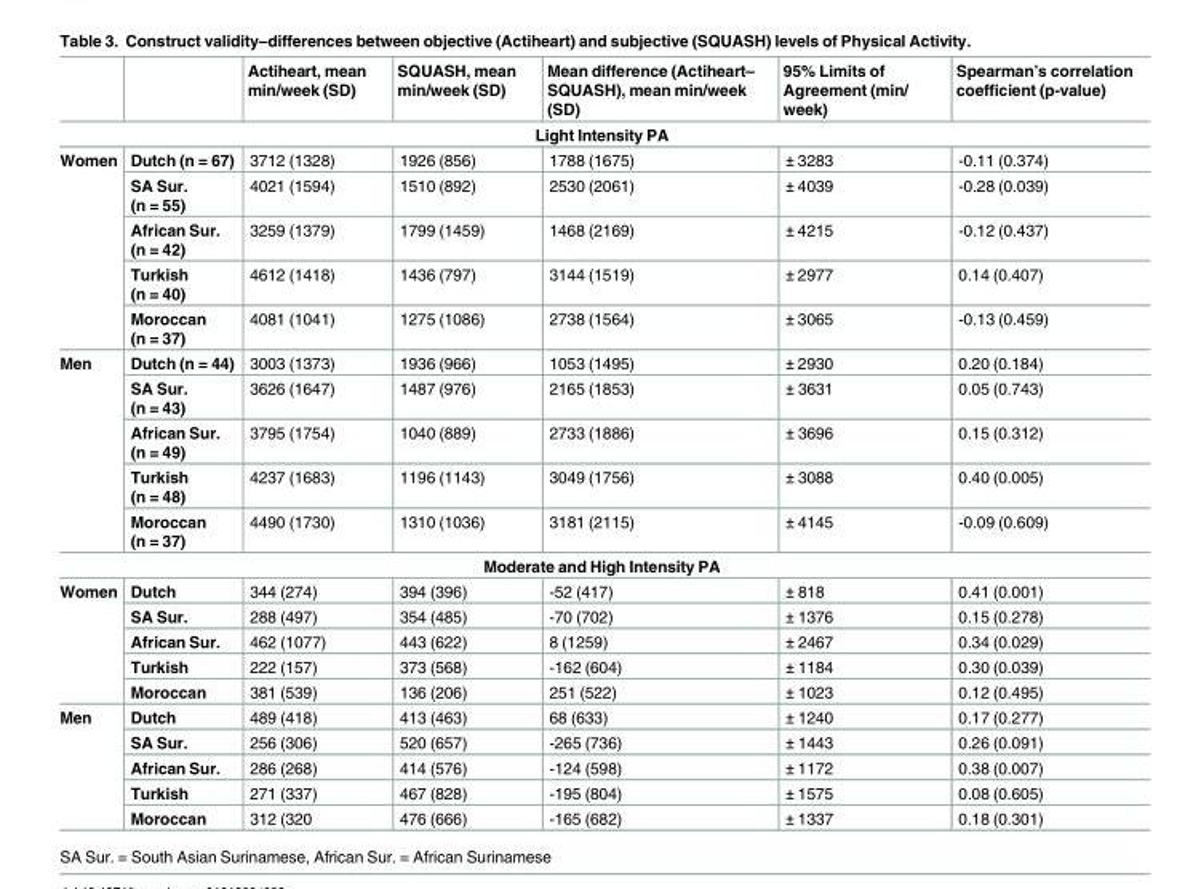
<table><thead><tr><td></td><td></td><td>Actiheart, mean min/week (SD)</td><td>SQUASH, mean min/week (SD)</td><td>Mean difference (Actiheart– SQUASH), mean min/week (SD)</td><td>95% Limits of Agreement (min/ week)</td><td>Spearman’s correlation coefficient (p-value)</td></tr></thead><tbody><tr><td colspan="7">Light Intensity PA</td></tr><tr><td rowspan="5">Women</td><td>Dutch (n = 67)</td><td>3712 (1328)</td><td>1926 (856)</td><td>1788 (1675)</td><td>± 3283</td><td>-0.11 (0.374)</td></tr><tr><td>SA Sur. (n = 55)</td><td>4021 (1594)</td><td>1510 (892)</td><td>2530 (2061)</td><td>± 4039</td><td>-0.28 (0.039)</td></tr><tr><td>African Sur. (n = 42)</td><td>3259 (1379)</td><td>1799 (1459)</td><td>1468 (2169)</td><td>± 4215</td><td>-0.12 (0.437)</td></tr><tr><td>Turkish (n = 40)</td><td>4612 (1418)</td><td>1436 (797)</td><td>3144 (1519)</td><td>± 2977</td><td>0.14 (0.407)</td></tr><tr><td>Moroccan (n = 37)</td><td>4081 (1041)</td><td>1275 (1086)</td><td>2738 (1564)</td><td>± 3065</td><td>-0.13 (0.459)</td></tr><tr><td rowspan="5">Men</td><td>Dutch (n = 44)</td><td>3003 (1373)</td><td>1936 (966)</td><td>1053 (1495)</td><td>± 2930</td><td>0.20 (0.184)</td></tr><tr><td>SA Sur. (n = 43)</td><td>3626 (1647)</td><td>1487 (976)</td><td>2165 (1853)</td><td>± 3631</td><td>0.05 (0.743)</td></tr><tr><td>African Sur. (n = 49)</td><td>3795 (1754)</td><td>1040 (889)</td><td>2733 (1886)</td><td>± 3696</td><td>0.15 (0.312)</td></tr><tr><td>Turkish (n = 48)</td><td>4237 (1683)</td><td>1196 (1143)</td><td>3049 (1756)</td><td>± 3088</td><td>0.40 (0.005)</td></tr><tr><td>Moroccan (n = 37)</td><td>4490 (1730)</td><td>1310 (1036)</td><td>3181 (2115)</td><td>± 4145</td><td>-0.09 (0.609)</td></tr><tr><td colspan="7">Moderate and High Intensity PA</td></tr><tr><td rowspan="5">Women</td><td>Dutch</td><td>344 (274)</td><td>394 (396)</td><td>-52 (417)</td><td>± 818</td><td>0.41 (0.001)</td></tr><tr><td>SA Sur.</td><td>288 (497)</td><td>354 (485)</td><td>-70 (702)</td><td>± 1376</td><td>0.15 (0.278)</td></tr><tr><td>African Sur.</td><td>462 (1077)</td><td>443 (622)</td><td>8 (1259)</td><td>± 2467</td><td>0.34 (0.029)</td></tr><tr><td>Turkish</td><td>222 (157)</td><td>373 (568)</td><td>-162 (604)</td><td>± 1184</td><td>0.30 (0.039)</td></tr><tr><td>Moroccan</td><td>381 (539)</td><td>136 (206)</td><td>251 (522)</td><td>± 1023</td><td>0.12 (0.495)</td></tr><tr><td rowspan="5">Men</td><td>Dutch</td><td>489 (418)</td><td>413 (463)</td><td>68 (633)</td><td>± 1240</td><td>0.17 (0.277)</td></tr><tr><td>SA Sur.</td><td>256 (306)</td><td>520 (657)</td><td>-265 (736)</td><td>± 1443</td><td>0.26 (0.091)</td></tr><tr><td>African Sur.</td><td>286 (268)</td><td>414 (576)</td><td>-124 (598)</td><td>± 1172</td><td>0.38 (0.007)</td></tr><tr><td>Turkish</td><td>271 (337)</td><td>467 (828)</td><td>-195 (804)</td><td>± 1575</td><td>0.08 (0.605)</td></tr><tr><td>Moroccan</td><td>312 (320</td><td>476 (666)</td><td>-165 (682)</td><td>± 1337</td><td>0.18 (0.301)</td></tr></tbody></table>